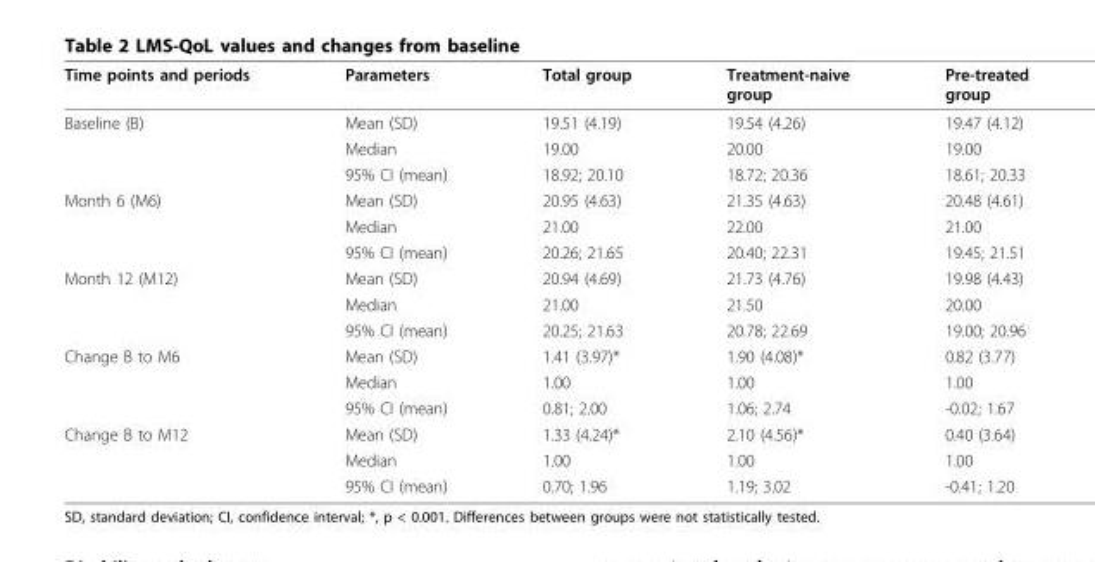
<table><thead><tr><td>Time points and periods</td><td>Parameters</td><td>Total group</td><td>Treatment-naive group</td><td>Pre-treated group</td></tr></thead><tbody><tr><td rowspan="3">Baseline (B)</td><td>Mean (SD)</td><td>19.51 (4.19)</td><td>19.54 (4.26)</td><td>19.47 (4.12)</td></tr><tr><td>Median</td><td>19.00</td><td>20.00</td><td>19.00</td></tr><tr><td>95% CI (mean)</td><td>18.92; 20.10</td><td>18.72; 20.36</td><td>18.61; 20.33</td></tr><tr><td rowspan="3">Month 6 (M6)</td><td>Mean (SD)</td><td>20.95 (4.63)</td><td>21.35 (4.63)</td><td>20.48 (4.61)</td></tr><tr><td>Median</td><td>21.00</td><td>22.00</td><td>21.00</td></tr><tr><td>95% CI (mean)</td><td>20.26; 21.65</td><td>20.40; 22.31</td><td>19.45; 21.51</td></tr><tr><td rowspan="3">Month 12 (M12)</td><td>Mean (SD)</td><td>20.94 (4.69)</td><td>21.73 (4.76)</td><td>19.98 (4.43)</td></tr><tr><td>Median</td><td>21.00</td><td>21.50</td><td>20.00</td></tr><tr><td>95% CI (mean)</td><td>20.25; 21.63</td><td>20.78; 22.69</td><td>19.00; 20.96</td></tr><tr><td rowspan="3">Change B to M6</td><td>Mean (SD)</td><td>1.41 (3.97)*</td><td>1.90 (4.08)*</td><td>0.82 (3.77)</td></tr><tr><td>Median</td><td>1.00</td><td>1.00</td><td>1.00</td></tr><tr><td>95% CI (mean)</td><td>0.81; 2.00</td><td>1.06; 2.74</td><td>-0.02; 1.67</td></tr><tr><td rowspan="3">Change B to M12</td><td>Mean (SD)</td><td>1.33 (4.24)*</td><td>2.10 (4.56)*</td><td>0.40 (3.64)</td></tr><tr><td>Median</td><td>1.00</td><td>1.00</td><td>1.00</td></tr><tr><td>95% CI (mean)</td><td>0.70; 1.96</td><td>1.19; 3.02</td><td>-0.41; 1.20</td></tr></tbody></table>